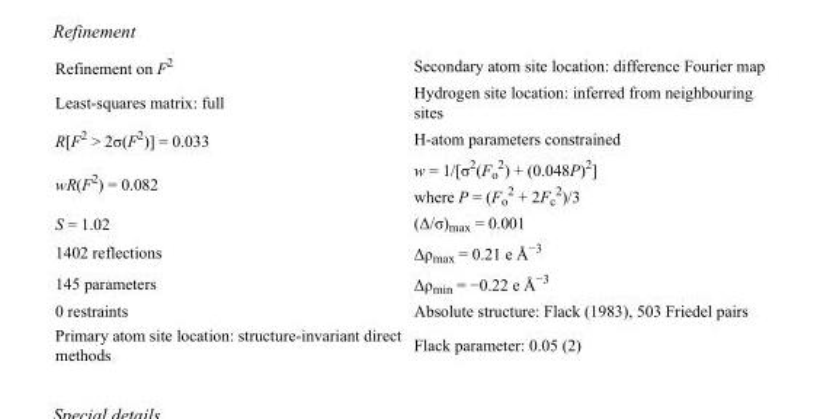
<table><tbody><tr><td>Refinement on F<sup>2</sup></td><td>Secondary atom site location: difference Fourier map</td></tr><tr><td>Least-squares matrix: full</td><td>Hydrogen site location: inferred from neighbouring sites</td></tr><tr><td>R[F<sup>2</sup> &gt; 2σ(F<sup>2</sup>)] = 0.033</td><td>H-atom parameters constrained</td></tr><tr><td>wR(F<sup>2</sup>) = 0.082</td><td>w = 1/[σ<sup>2</sup>(F<sub>o</sub> <sup>2</sup>) + (0.048P)<sup>2</sup>] where P = (F<sub>o</sub> <sup>2</sup> + 2F<sub>c</sub> <sup>2</sup>)/3</td></tr><tr><td>S = 1.02</td><td>(Δ/σ)<sub>max</sub> = 0.001</td></tr><tr><td>1402 reflections</td><td>Δρ<sub>max</sub> = 0.21 e Å<sup>−3</sup></td></tr><tr><td>145 parameters</td><td>Δρ<sub>min</sub> = −0.22 e Å<sup>−3</sup></td></tr><tr><td>0 restraints</td><td>Absolute structure: Flack (1983), 503 Friedel pairs</td></tr><tr><td>Primary atom site location: structure-invariant direct methods</td><td>Flack parameter: 0.05 (2)</td></tr></tbody></table>